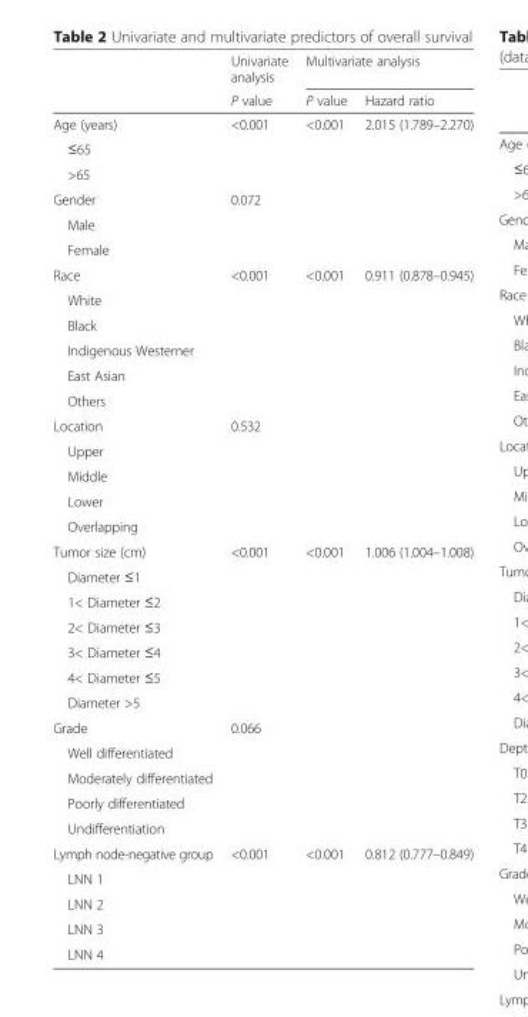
<table><thead><tr><td rowspan="2"></td><td rowspan="2">Univariate analysis P value</td><td colspan="2">Multivariate analysis</td></tr><tr><td>P value</td><td>Hazard ratio</td></tr></thead><tbody><tr><td>Age (years)</td><td>&lt;0.001</td><td>&lt;0.001</td><td>2.015 (1.789–2.270)</td></tr><tr><td colspan="4">≤65</td></tr><tr><td colspan="4">&gt;65</td></tr><tr><td>Gender</td><td>0.072</td><td></td><td></td></tr><tr><td colspan="4">Male</td></tr><tr><td colspan="4">Female</td></tr><tr><td>Race</td><td>&lt;0.001</td><td>&lt;0.001</td><td>0.911 (0.878–0.945)</td></tr><tr><td colspan="4">White</td></tr><tr><td colspan="4">Black</td></tr><tr><td colspan="4">Indigenous Westerner</td></tr><tr><td colspan="4">East Asian</td></tr><tr><td colspan="4">Others</td></tr><tr><td>Location</td><td>0.532</td><td></td><td></td></tr><tr><td colspan="4">Upper</td></tr><tr><td colspan="4">Middle</td></tr><tr><td colspan="4">Lower</td></tr><tr><td colspan="4">Overlapping</td></tr><tr><td>Tumor size (cm)</td><td>&lt;0.001</td><td>&lt;0.001</td><td>1.006 (1.004–1.008)</td></tr><tr><td colspan="4">Diameter ≤1</td></tr><tr><td colspan="4">1&lt; Diameter ≤2</td></tr><tr><td colspan="4">2&lt; Diameter ≤3</td></tr><tr><td colspan="4">3&lt; Diameter ≤4</td></tr><tr><td colspan="4">4&lt; Diameter ≤5</td></tr><tr><td colspan="4">Diameter &gt;5</td></tr><tr><td>Grade</td><td>0.066</td><td></td><td></td></tr><tr><td colspan="4">Well differentiated</td></tr><tr><td colspan="4">Moderately differentiated</td></tr><tr><td colspan="4">Poorly differentiated</td></tr><tr><td colspan="4">Undifferentiation</td></tr><tr><td>Lymph node-negative group</td><td>&lt;0.001</td><td>&lt;0.001</td><td>0.812 (0.777–0.849)</td></tr><tr><td colspan="4">LNN 1</td></tr><tr><td colspan="4">LNN 2</td></tr><tr><td colspan="4">LNN 3</td></tr><tr><td>LNN 4</td><td></td><td></td><td></td></tr></tbody></table>